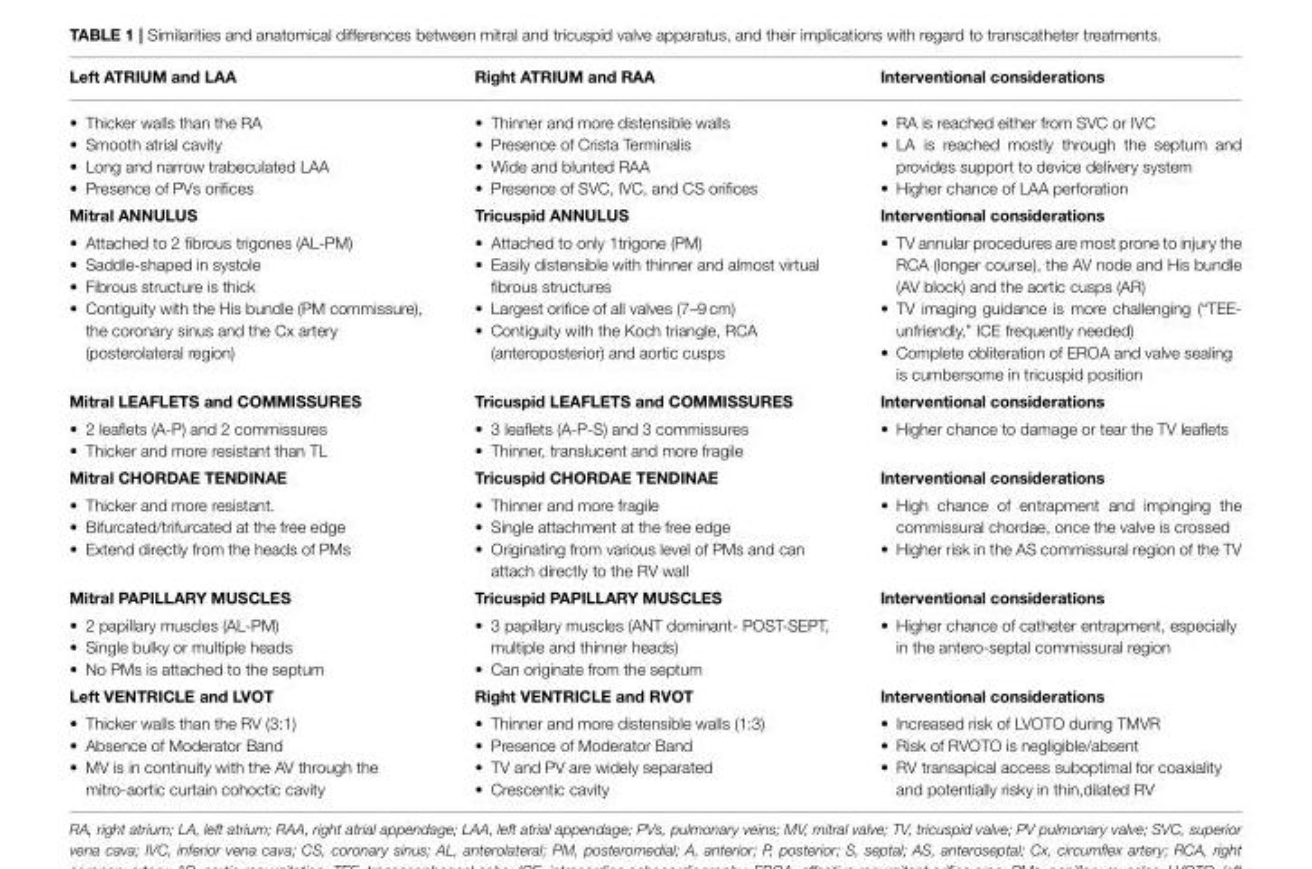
<table><thead><tr><td>Left ATRIUM and LAA</td><td>Right ATRIUM and RAA</td><td>Interventional considerations</td></tr></thead><tbody><tr><td>• Thicker walls than the RA • Smooth atrial cavity • Long and narrow trabeculated LAA • Presence of PVs orifices</td><td>• Thinner and more distensible walls • Presence of Crista Terminalis • Wide and blunted RAA • Presence of SVC, IVC, and CS orifices</td><td>• RA is reached either from SVC or IVC • LA is reached mostly through the septum and provides support to device delivery system • Higher chance of LAA perforation</td></tr><tr><td>Mitral ANNULUS</td><td>Tricuspid ANNULUS</td><td>Interventional considerations</td></tr><tr><td>• Attached to 2 fibrous trigones (AL-PM) • Saddle-shaped in systole • Fibrous structure is thick • Contiguity with the His bundle (PM commissure), the coronary sinus and the Cx artery (posterolateral region)</td><td>• Attached to only 1trigone (PM) • Easily distensible with thinner and almost virtual fibrous structures • Largest orifice of all valves (7–9 cm) • Contiguity with the Koch triangle, RCA (anteroposterior) and aortic cusps</td><td>• TV annular procedures are most prone to injury the RCA (longer course), the AV node and His bundle (AV block) and the aortic cusps (AR) • TV imaging guidance is more challenging (“TEE- unfriendly,” ICE frequently needed) • Complete obliteration of EROA and valve sealing is cumbersome in tricuspid position</td></tr><tr><td>Mitral LEAFLETS and COMMISSURES</td><td>Tricuspid LEAFLETS and COMMISSURES</td><td>Interventional considerations</td></tr><tr><td>• 2 leaflets (A-P) and 2 commissures • Thicker and more resistant than TL</td><td>• 3 leaflets (A-P-S) and 3 commissures • Thinner, translucent and more fragile</td><td>• Higher chance to damage or tear the TV leaflets</td></tr><tr><td>Mitral CHORDAE TENDINAE</td><td>Tricuspid CHORDAE TENDINAE</td><td>Interventional considerations</td></tr><tr><td>• Thicker and more resistant. • Bifurcated/trifurcated at the free edge • Extend directly from the heads of PMs</td><td>• Thinner and more fragile • Single attachment at the free edge • Originating from various level of PMs and can attach directly to the RV wall</td><td>• High chance of entrapment and impinging the commissural chordae, once the valve is crossed • Higher risk in the AS commissural region of the TV</td></tr><tr><td>Mitral PAPILLARY MUSCLES</td><td>Tricuspid PAPILLARY MUSCLES</td><td>Interventional considerations</td></tr><tr><td>• 2 papillary muscles (AL-PM) • Single bulky or multiple heads • No PMs is attached to the septum</td><td>• 3 papillary muscles (ANT dominant- POST-SEPT, multiple and thinner heads) • Can originate from the septum</td><td>• Higher chance of catheter entrapment, especially in the antero-septal commissural region</td></tr><tr><td>Left VENTRICLE and LVOT</td><td>Right VENTRICLE and RVOT</td><td>Interventional considerations</td></tr><tr><td>• Thicker walls than the RV (3:1) • Absence of Moderator Band • MV is in continuity with the AV through the mitro-aortic curtain cohoctic cavity</td><td>• Thinner and more distensible walls (1:3) • Presence of Moderator Band • TV and PV are widely separated • Crescentic cavity</td><td>• Increased risk of LVOTO during TMVR • Risk of RVOTO is negligible/absent • RV transapical access suboptimal for coaxiality and potentially risky in thin,dilated RV</td></tr></tbody></table>